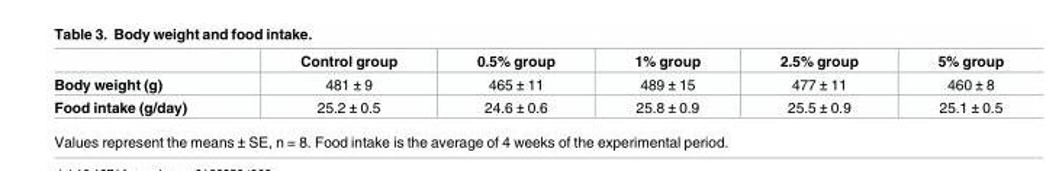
<table><thead><tr><td></td><td>Control group</td><td>0.5% group</td><td>1% group</td><td>2.5% group</td><td>5% group</td></tr></thead><tbody><tr><td>Body weight (g)</td><td>481 ± 9</td><td>465 ± 11</td><td>489 ± 15</td><td>477 ± 11</td><td>460 ± 8</td></tr><tr><td>Food intake (g/day)</td><td>25.2 ± 0.5</td><td>24.6 ± 0.6</td><td>25.8 ± 0.9</td><td>25.5 ± 0.9</td><td>25.1 ± 0.5</td></tr></tbody></table>